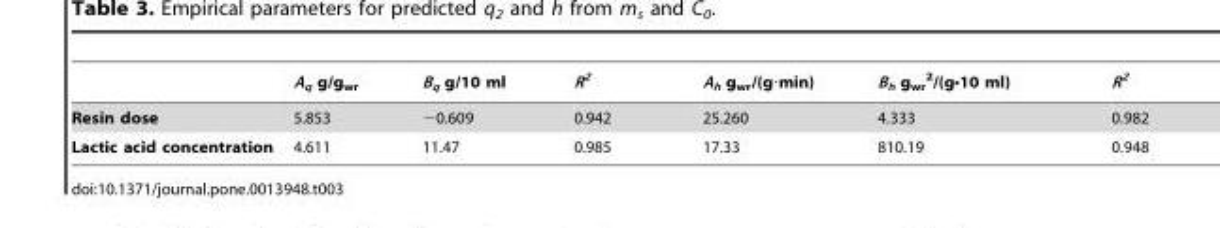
<table><thead><tr><td></td><td>A<sub>q</sub> g/g<sub>wr</sub></td><td>B<sub>q</sub> g/10 ml</td><td>R<sup>2</sup></td><td>A<sub>h</sub> g<sub>wr</sub>/(g·min)</td><td>B<sub>h</sub> g<sub>wr</sub> <sup>2</sup>/(g•10 ml)</td><td>R<sup>2</sup></td></tr></thead><tbody><tr><td>Resin dose</td><td>5.853</td><td>−0.609</td><td>0.942</td><td>25.260</td><td>4.333</td><td>0.982</td></tr><tr><td>Lactic acid concentration</td><td>4.611</td><td>11.47</td><td>0.985</td><td>17.33</td><td>810.19</td><td>0.948</td></tr></tbody></table>